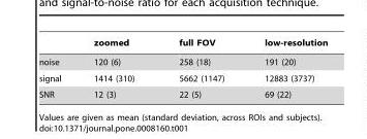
<table><thead><tr><td></td><td>zoomed</td><td>full FOV</td><td>low-resolution</td></tr></thead><tbody><tr><td>noise</td><td>120 (6)</td><td>258 (18)</td><td>191 (20)</td></tr><tr><td>signal</td><td>1414 (310)</td><td>5662 (1147)</td><td>12883 (3737)</td></tr><tr><td>SNR</td><td>12 (3)</td><td>22 (5)</td><td>69 (22)</td></tr></tbody></table>